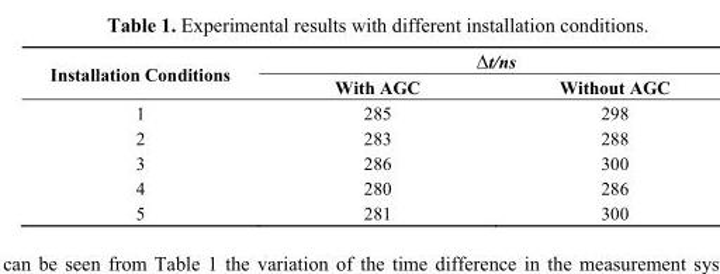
<table><thead><tr><td rowspan="2">Installation Conditions</td><td colspan="2">∆t/ns</td></tr><tr><td>With AGC</td><td>Without AGC</td></tr></thead><tbody><tr><td>1</td><td>285</td><td>298</td></tr><tr><td>2</td><td>283</td><td>288</td></tr><tr><td>3</td><td>286</td><td>300</td></tr><tr><td>4</td><td>280</td><td>286</td></tr><tr><td>5</td><td>281</td><td>300</td></tr></tbody></table>